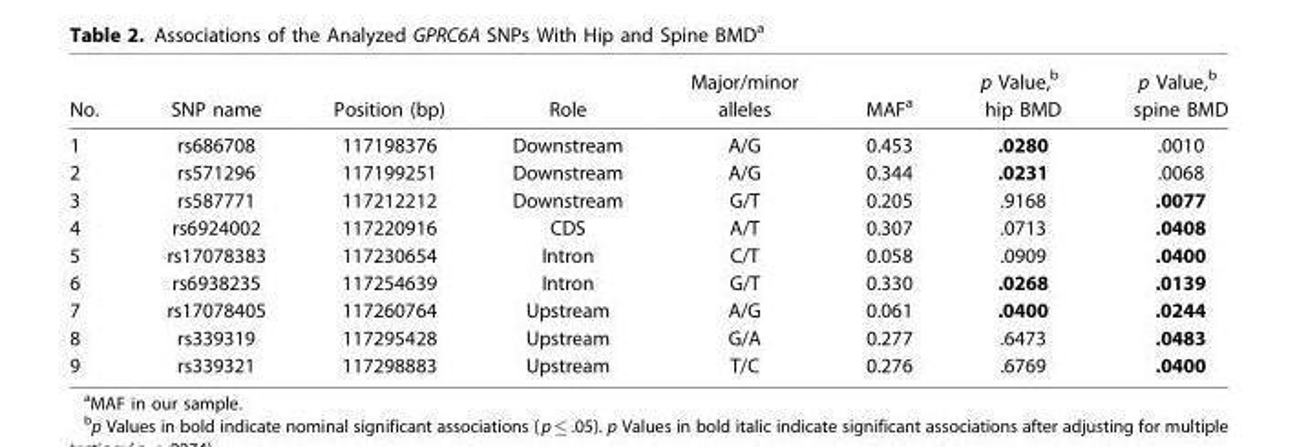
<table><thead><tr><td>No.</td><td>SNP name</td><td>Position (bp)</td><td>Role</td><td>Major/minor alleles</td><td>MAF<sup>a</sup></td><td>p Value,<sup>b</sup> hip BMD</td><td>p Value,<sup>b</sup> spine BMD</td></tr></thead><tbody><tr><td>1</td><td>rs686708</td><td>117198376</td><td>Downstream</td><td>A/G</td><td>0.453</td><td>.0280</td><td>.0010</td></tr><tr><td>2</td><td>rs571296</td><td>117199251</td><td>Downstream</td><td>A/G</td><td>0.344</td><td>.0231</td><td>.0068</td></tr><tr><td>3</td><td>rs587771</td><td>117212212</td><td>Downstream</td><td>G/T</td><td>0.205</td><td>.9168</td><td>.0077</td></tr><tr><td>4</td><td>rs6924002</td><td>117220916</td><td>CDS</td><td>A/T</td><td>0.307</td><td>.0713</td><td>.0408</td></tr><tr><td>5</td><td>rs17078383</td><td>117230654</td><td>Intron</td><td>C/T</td><td>0.058</td><td>.0909</td><td>.0400</td></tr><tr><td>6</td><td>rs6938235</td><td>117254639</td><td>Intron</td><td>G/T</td><td>0.330</td><td>.0268</td><td>.0139</td></tr><tr><td>7</td><td>rs17078405</td><td>117260764</td><td>Upstream</td><td>A/G</td><td>0.061</td><td>.0400</td><td>.0244</td></tr><tr><td>8</td><td>rs339319</td><td>117295428</td><td>Upstream</td><td>G/A</td><td>0.277</td><td>.6473</td><td>.0483</td></tr><tr><td>9</td><td>rs339321</td><td>117298883</td><td>Upstream</td><td>T/C</td><td>0.276</td><td>.6769</td><td>.0400</td></tr></tbody></table>